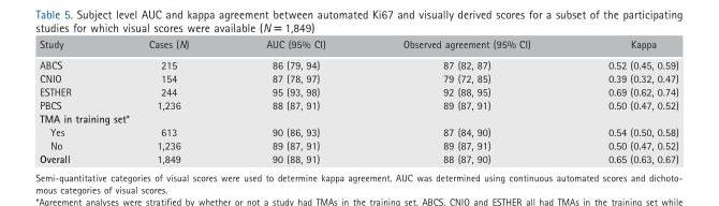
<table><thead><tr><td>Study</td><td>Cases (N)</td><td>AUC (95% CI)</td><td>Observed agreement (95% CI)</td><td>Kappa</td></tr></thead><tbody><tr><td>ABCS</td><td>215</td><td>86 (79, 94)</td><td>87 (82, 87)</td><td>0.52 (0.45, 0.59)</td></tr><tr><td>CNIO</td><td>154</td><td>87 (78, 97)</td><td>79 (72, 85)</td><td>0.39 (0.32, 0.47)</td></tr><tr><td>ESTHER</td><td>244</td><td>95 (93, 98)</td><td>92 (88, 95)</td><td>0.69 (0.62, 0.74)</td></tr><tr><td>PBCS</td><td>1,236</td><td>88 (87, 91)</td><td>89 (87, 91)</td><td>0.50 (0.47, 0.52)</td></tr><tr><td colspan="5">TMA in training set*</td></tr><tr><td>Yes</td><td>613</td><td>90 (86, 93)</td><td>87 (84, 90)</td><td>0.54 (0.50, 0.58)</td></tr><tr><td>No</td><td>1,236</td><td>89 (87, 91)</td><td>89 (87, 91)</td><td>0.50 (0.47, 0.52)</td></tr><tr><td>Overall</td><td>1,849</td><td>90 (88, 91)</td><td>88 (87, 90)</td><td>0.65 (0.63, 0.67)</td></tr></tbody></table>